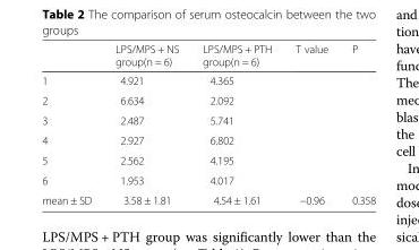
<table><thead><tr><td></td><td>LPS/MPS + NS group(n = 6)</td><td>LPS/MPS + PTH group(n = 6)</td><td>T value</td><td>P</td></tr></thead><tbody><tr><td>1</td><td>4.921</td><td>4.365</td><td></td><td></td></tr><tr><td>2</td><td>6.634</td><td>2.092</td><td></td><td></td></tr><tr><td>3</td><td>2.487</td><td>5.741</td><td></td><td></td></tr><tr><td>4</td><td>2.927</td><td>6.802</td><td></td><td></td></tr><tr><td>5</td><td>2.562</td><td>4.195</td><td></td><td></td></tr><tr><td>6</td><td>1.953</td><td>4.017</td><td></td><td></td></tr><tr><td>mean ± SD</td><td>3.58 ± 1.81</td><td>4.54 ± 1.61</td><td>−0.96</td><td>0.358</td></tr></tbody></table>